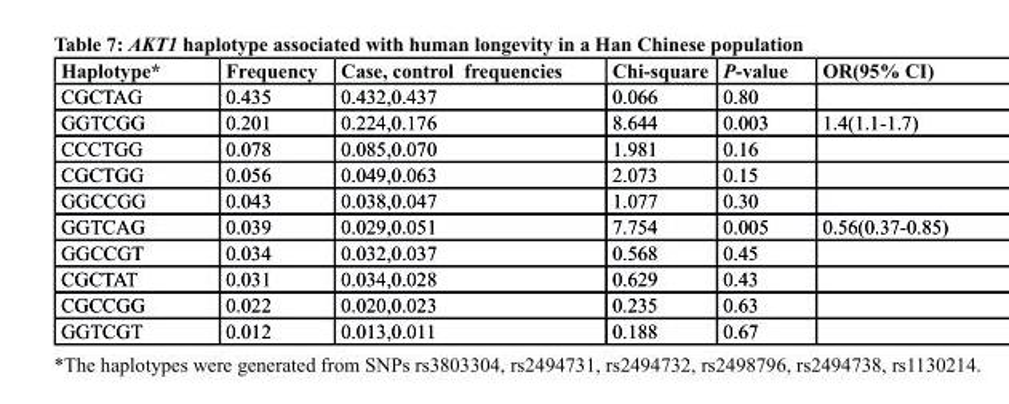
<table><thead><tr><td>Haplotype*</td><td>Frequency</td><td>case, control frequencies</td><td>chi-square</td><td>P-value</td><td>Or(95% cI)</td></tr></thead><tbody><tr><td>CGCTAG</td><td>0.435</td><td>0.432,0.437</td><td>0.066</td><td>0.80</td><td></td></tr><tr><td>GGTCGG</td><td>0.201</td><td>0.224,0.176</td><td>8.644</td><td>0.003</td><td>1.4(1.1-1.7)</td></tr><tr><td>CCCTGG</td><td>0.078</td><td>0.085,0.070</td><td>1.981</td><td>0.16</td><td></td></tr><tr><td>CGCTGG</td><td>0.056</td><td>0.049,0.063</td><td>2.073</td><td>0.15</td><td></td></tr><tr><td>GGCCGG</td><td>0.043</td><td>0.038,0.047</td><td>1.077</td><td>0.30</td><td></td></tr><tr><td>GGTCAG</td><td>0.039</td><td>0.029,0.051</td><td>7.754</td><td>0.005</td><td>0.56(0.37-0.85)</td></tr><tr><td>GGCCGT</td><td>0.034</td><td>0.032,0.037</td><td>0.568</td><td>0.45</td><td></td></tr><tr><td>CGCTAT</td><td>0.031</td><td>0.034,0.028</td><td>0.629</td><td>0.43</td><td></td></tr><tr><td>CGCCGG</td><td>0.022</td><td>0.020,0.023</td><td>0.235</td><td>0.63</td><td></td></tr><tr><td>GGTCGT</td><td>0.012</td><td>0.013,0.011</td><td>0.188</td><td>0.67</td><td></td></tr></tbody></table>